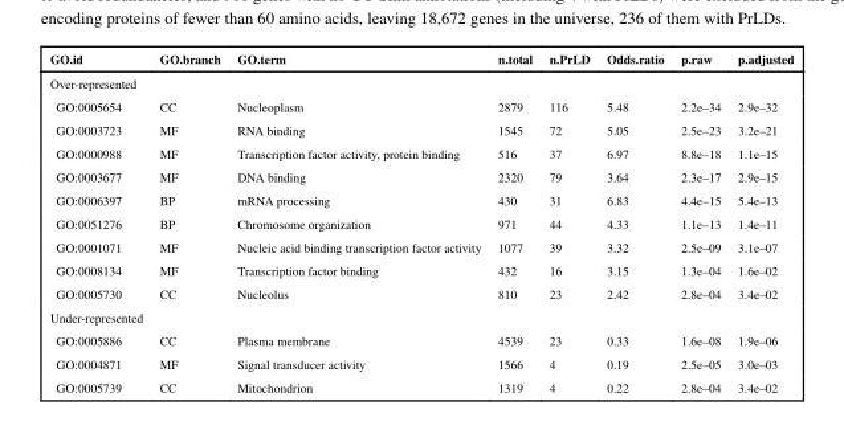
<table><thead><tr><td>GO.id</td><td>GO.branch</td><td>GO.term</td><td>n.total</td><td>n.PrLD</td><td>Odds.ratio</td><td>p.raw</td><td>p.adjusted</td></tr></thead><tbody><tr><td colspan="8">Over-represented</td></tr><tr><td>GO:0005654</td><td>CC</td><td>Nucleoplasm</td><td>2879</td><td>116</td><td>5.48</td><td>2.2e–34</td><td>2.9e–32</td></tr><tr><td>GO:0003723</td><td>MF</td><td>RNA binding</td><td>1545</td><td>72</td><td>5.05</td><td>2.5e–23</td><td>3.2e–21</td></tr><tr><td>GO:0000988</td><td>MF</td><td>Transcription factor activity, protein binding</td><td>516</td><td>37</td><td>6.97</td><td>8.8e–18</td><td>1.1e–15</td></tr><tr><td>GO:0003677</td><td>MF</td><td>DNA binding</td><td>2320</td><td>79</td><td>3.64</td><td>2.3e–17</td><td>2.9e–15</td></tr><tr><td>GO:0006397</td><td>BP</td><td>mRNA processing</td><td>430</td><td>31</td><td>6.83</td><td>4.4e–15</td><td>5.4e–13</td></tr><tr><td>GO:0051276</td><td>BP</td><td>Chromosome organization</td><td>971</td><td>44</td><td>4.33</td><td>1.1e–13</td><td>1.4e–11</td></tr><tr><td>GO:0001071</td><td>MF</td><td>Nucleic acid binding transcription factor activity</td><td>1077</td><td>39</td><td>3.32</td><td>2.5e–09</td><td>3.1e–07</td></tr><tr><td>GO:0008134</td><td>MF</td><td>Transcription factor binding</td><td>432</td><td>16</td><td>3.15</td><td>1.3e–04</td><td>1.6e–02</td></tr><tr><td>GO:0005730</td><td>CC</td><td>Nucleolus</td><td>810</td><td>23</td><td>2.42</td><td>2.8e–04</td><td>3.4e–02</td></tr><tr><td colspan="8">Under-represented</td></tr><tr><td>GO:0005886</td><td>CC</td><td>Plasma membrane</td><td>4539</td><td>23</td><td>0.33</td><td>1.6e–08</td><td>1.9e–06</td></tr><tr><td>GO:0004871</td><td>MF</td><td>Signal transducer activity</td><td>1566</td><td>4</td><td>0.19</td><td>2.5e–05</td><td>3.0e–03</td></tr><tr><td>GO:0005739</td><td>CC</td><td>Mitochondrion</td><td>1319</td><td>4</td><td>0.22</td><td>2.8e–04</td><td>3.4e–02</td></tr></tbody></table>